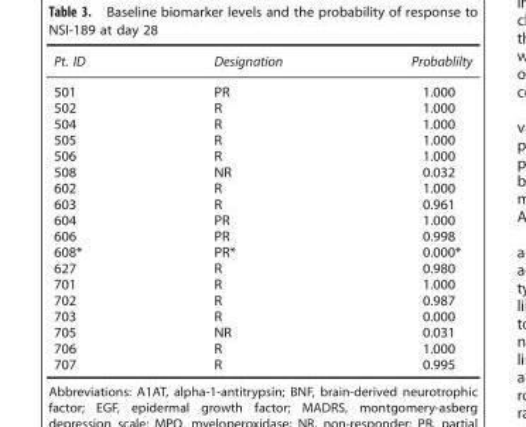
<table><thead><tr><td>Pt. ID</td><td>Designation</td><td>Probablilty</td></tr></thead><tbody><tr><td>501</td><td>PR</td><td>1.000</td></tr><tr><td>502</td><td>R</td><td>1.000</td></tr><tr><td>504</td><td>R</td><td>1.000</td></tr><tr><td>505</td><td>R</td><td>1.000</td></tr><tr><td>506</td><td>R</td><td>1.000</td></tr><tr><td>508</td><td>NR</td><td>0.032</td></tr><tr><td>602</td><td>R</td><td>1.000</td></tr><tr><td>603</td><td>R</td><td>0.961</td></tr><tr><td>604</td><td>PR</td><td>1.000</td></tr><tr><td>606</td><td>PR</td><td>0.998</td></tr><tr><td>608*</td><td>PR*</td><td>0.000*</td></tr><tr><td>627</td><td>R</td><td>0.980</td></tr><tr><td>701</td><td>R</td><td>1.000</td></tr><tr><td>702</td><td>R</td><td>0.987</td></tr><tr><td>703</td><td>R</td><td>0.000</td></tr><tr><td>705</td><td>NR</td><td>0.031</td></tr><tr><td>706</td><td>R</td><td>1.000</td></tr><tr><td>707</td><td>R</td><td>0.995</td></tr></tbody></table>